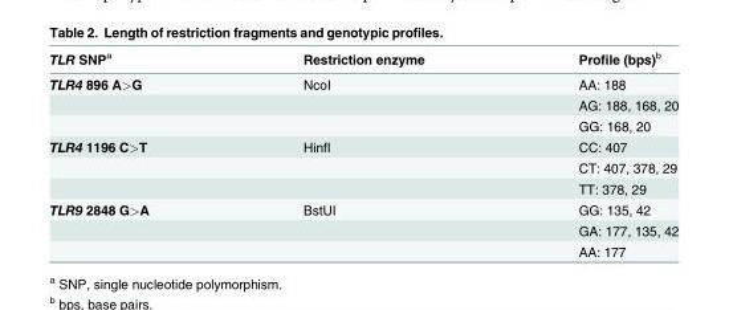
<table><thead><tr><td>TLR SNP<sup>a</sup></td><td>Restriction enzyme</td><td>Profile (bps)<sup>b</sup></td></tr></thead><tbody><tr><td rowspan="3">TLR4 896 A&gt;G</td><td>NcoI</td><td>AA: 188</td></tr><tr><td></td><td>AG: 188, 168, 20</td></tr><tr><td></td><td>GG: 168, 20</td></tr><tr><td rowspan="3">TLR4 1196 C&gt;T</td><td>HinfI</td><td>CC: 407</td></tr><tr><td></td><td>CT: 407, 378, 29</td></tr><tr><td></td><td>TT: 378, 29</td></tr><tr><td rowspan="3">TLR9 2848 G&gt;A</td><td>BstUI</td><td>GG: 135, 42</td></tr><tr><td></td><td>GA: 177, 135, 42</td></tr><tr><td></td><td>AA: 177</td></tr></tbody></table>